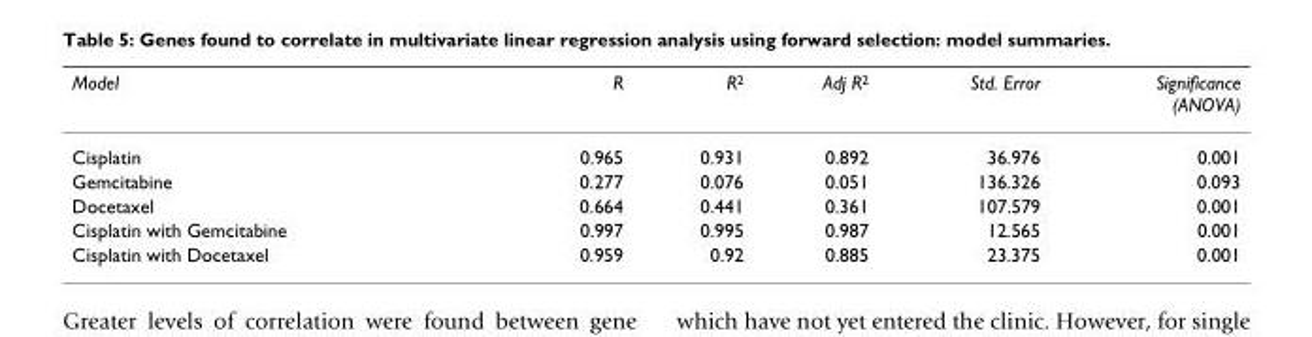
<table><thead><tr><td>Model</td><td>R</td><td>R<sup>2</sup></td><td>Adj R<sup>2</sup></td><td>Std. Error</td><td>Significance (ANOVA)</td></tr></thead><tbody><tr><td>Cisplatin</td><td>0.965</td><td>0.931</td><td>0.892</td><td>36.976</td><td>0.001</td></tr><tr><td>Gemcitabine</td><td>0.277</td><td>0.076</td><td>0.051</td><td>136.326</td><td>0.093</td></tr><tr><td>Docetaxel</td><td>0.664</td><td>0.441</td><td>0.361</td><td>107.579</td><td>0.001</td></tr><tr><td>Cisplatin with Gemcitabine</td><td>0.997</td><td>0.995</td><td>0.987</td><td>12.565</td><td>0.001</td></tr><tr><td>Cisplatin with Docetaxel</td><td>0.959</td><td>0.92</td><td>0.885</td><td>23.375</td><td>0.001</td></tr></tbody></table>